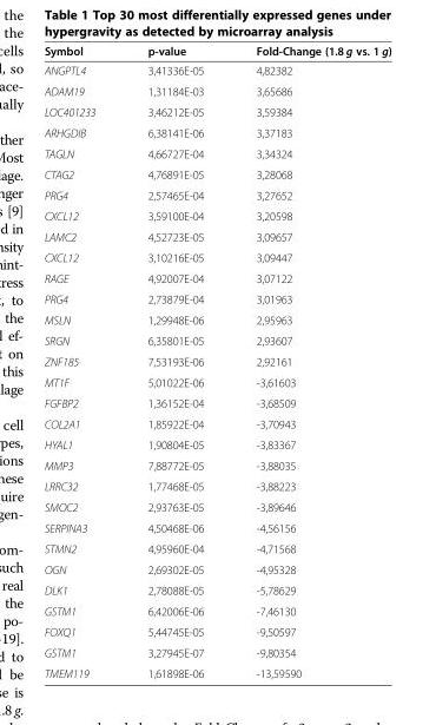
<table><thead><tr><td>Symbol</td><td>p-value</td><td>Fold-Change (1.8 g vs. 1 g)</td></tr></thead><tbody><tr><td>ANGPTL4</td><td>3,41336E-05</td><td>4,82382</td></tr><tr><td>ADAM19</td><td>1,31184E-03</td><td>3,65686</td></tr><tr><td>LOC401233</td><td>3,46212E-05</td><td>3,59384</td></tr><tr><td>ARHGDIB</td><td>6,38141E-06</td><td>3,37183</td></tr><tr><td>TAGLN</td><td>4,66727E-04</td><td>3,34324</td></tr><tr><td>CTAG2</td><td>4,76891E-05</td><td>3,28068</td></tr><tr><td>PRG4</td><td>2,57465E-04</td><td>3,27652</td></tr><tr><td>CXCL12</td><td>3,59100E-04</td><td>3,20598</td></tr><tr><td>LAMC2</td><td>4,52723E-05</td><td>3,09657</td></tr><tr><td>CXCL12</td><td>3,10216E-05</td><td>3,09447</td></tr><tr><td>RAGE</td><td>4,92007E-04</td><td>3,07122</td></tr><tr><td>PRG4</td><td>2,73879E-04</td><td>3,01963</td></tr><tr><td>MSLN</td><td>1,29948E-06</td><td>2,95963</td></tr><tr><td>SRGN</td><td>6,35801E-05</td><td>2,93607</td></tr><tr><td>ZNF185</td><td>7,53193E-06</td><td>2,92161</td></tr><tr><td>MT1F</td><td>5,01022E-06</td><td>-3,61603</td></tr><tr><td>FGFBP2</td><td>1,36152E-04</td><td>-3,68509</td></tr><tr><td>COL2A1</td><td>1,85922E-04</td><td>-3,70943</td></tr><tr><td>HYAL1</td><td>1,90804E-05</td><td>-3,83367</td></tr><tr><td>MMP3</td><td>7,88772E-05</td><td>-3,88035</td></tr><tr><td>LRRC32</td><td>1,77468E-05</td><td>-3,88223</td></tr><tr><td>SMOC2</td><td>2,93763E-05</td><td>-3,89646</td></tr><tr><td>SERPINA3</td><td>4,50468E-06</td><td>-4,56156</td></tr><tr><td>STMN2</td><td>4,95960E-04</td><td>-4,71568</td></tr><tr><td>OGN</td><td>2,69302E-05</td><td>-4,95328</td></tr><tr><td>DLK1</td><td>2,78088E-05</td><td>-5,78629</td></tr><tr><td>GSTM1</td><td>6,42006E-06</td><td>-7,46130</td></tr><tr><td>FOXQ1</td><td>5,44745E-05</td><td>-9,50597</td></tr><tr><td>GSTM1</td><td>3,27945E-07</td><td>-9,80354</td></tr><tr><td>TMEM119</td><td>1,61898E-06</td><td>-13,59590</td></tr></tbody></table>